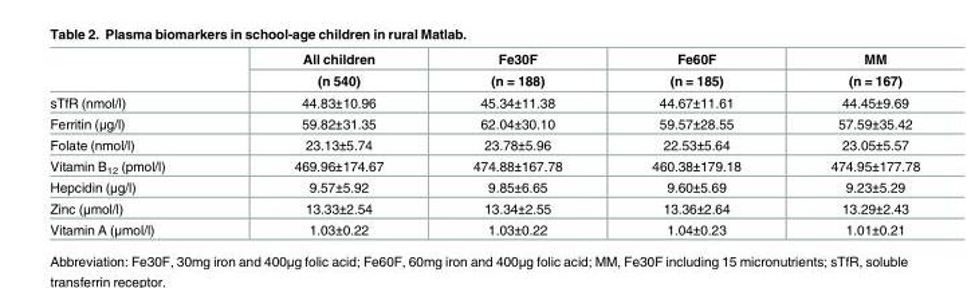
<table><thead><tr><td rowspan="2"></td><td rowspan="2">All children (n 540)</td><td rowspan="2">Fe30F (n = 188)</td><td rowspan="2">Fe60F (n = 185)</td><td rowspan="2">MM (n = 167)</td></tr><tr></tr></thead><tbody><tr><td>sTfR (nmol/l)</td><td>44.83±10.96</td><td>45.34±11.38</td><td>44.67±11.61</td><td>44.45±9.69</td></tr><tr><td>Ferritin (μg/l)</td><td>59.82±31.35</td><td>62.04±30.10</td><td>59.57±28.55</td><td>57.59±35.42</td></tr><tr><td>Folate (nmol/l)</td><td>23.13±5.74</td><td>23.78±5.96</td><td>22.53±5.64</td><td>23.05±5.57</td></tr><tr><td>Vitamin B<sub>12</sub> (pmol/l)</td><td>469.96±174.67</td><td>474.88±167.78</td><td>460.38±179.18</td><td>474.95±177.78</td></tr><tr><td>Hepcidin (μg/l)</td><td>9.57±5.92</td><td>9.85±6.65</td><td>9.60±5.69</td><td>9.23±5.29</td></tr><tr><td>Zinc (μmol/l)</td><td>13.33±2.54</td><td>13.34±2.55</td><td>13.36±2.64</td><td>13.29±2.43</td></tr><tr><td>Vitamin A (μmol/l)</td><td>1.03±0.22</td><td>1.03±0.22</td><td>1.04±0.23</td><td>1.01±0.21</td></tr></tbody></table>